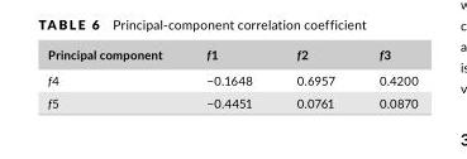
<table><thead><tr><td>Principal component</td><td>f1</td><td>f2</td><td>f3</td></tr></thead><tbody><tr><td>f4</td><td>−0.1648</td><td>0.6957</td><td>0.4200</td></tr><tr><td>f5</td><td>−0.4451</td><td>0.0761</td><td>0.0870</td></tr></tbody></table>